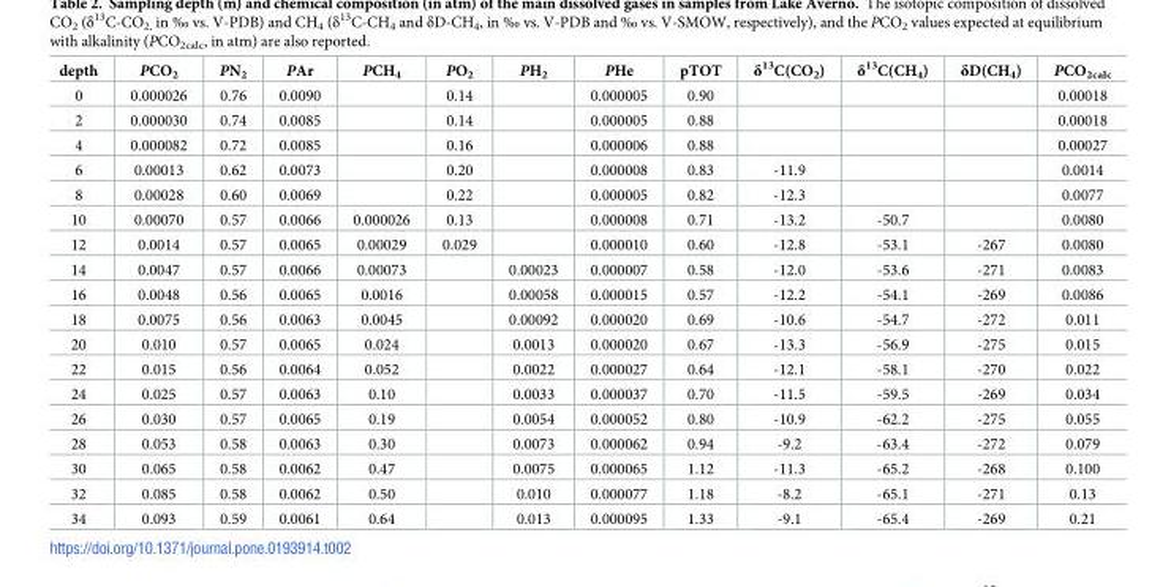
<table><thead><tr><td>depth</td><td>PCO<sub>2</sub></td><td>PN<sub>2</sub></td><td>PAr</td><td>PCH<sub>4</sub></td><td>PO<sub>2</sub></td><td>PH<sub>2</sub></td><td>PHe</td><td>pTOT</td><td>δ<sup>13</sup>C(CO<sub>2</sub>)</td><td>δ<sup>13</sup>C(CH<sub>4</sub>)</td><td>δD(CH<sub>4</sub>)</td><td>PCO<sub>2calc</sub></td></tr></thead><tbody><tr><td>0</td><td>0.000026</td><td>0.76</td><td>0.0090</td><td></td><td>0.14</td><td></td><td>0.000005</td><td>0.90</td><td></td><td></td><td></td><td>0.00018</td></tr><tr><td>2</td><td>0.000030</td><td>0.74</td><td>0.0085</td><td></td><td>0.14</td><td></td><td>0.000005</td><td>0.88</td><td></td><td></td><td></td><td>0.00018</td></tr><tr><td>4</td><td>0.000082</td><td>0.72</td><td>0.0085</td><td></td><td>0.16</td><td></td><td>0.000006</td><td>0.88</td><td></td><td></td><td></td><td>0.00027</td></tr><tr><td>6</td><td>0.00013</td><td>0.62</td><td>0.0073</td><td></td><td>0.20</td><td></td><td>0.000008</td><td>0.83</td><td>-11.9</td><td></td><td></td><td>0.0014</td></tr><tr><td>8</td><td>0.00028</td><td>0.60</td><td>0.0069</td><td></td><td>0.22</td><td></td><td>0.000005</td><td>0.82</td><td>-12.3</td><td></td><td></td><td>0.0077</td></tr><tr><td>10</td><td>0.00070</td><td>0.57</td><td>0.0066</td><td>0.000026</td><td>0.13</td><td></td><td>0.000008</td><td>0.71</td><td>-13.2</td><td>-50.7</td><td></td><td>0.0080</td></tr><tr><td>12</td><td>0.0014</td><td>0.57</td><td>0.0065</td><td>0.00029</td><td>0.029</td><td></td><td>0.000010</td><td>0.60</td><td>-12.8</td><td>-53.1</td><td>-267</td><td>0.0080</td></tr><tr><td>14</td><td>0.0047</td><td>0.57</td><td>0.0066</td><td>0.00073</td><td></td><td>0.00023</td><td>0.000007</td><td>0.58</td><td>-12.0</td><td>-53.6</td><td>-271</td><td>0.0083</td></tr><tr><td>16</td><td>0.0048</td><td>0.56</td><td>0.0065</td><td>0.0016</td><td></td><td>0.00058</td><td>0.000015</td><td>0.57</td><td>-12.2</td><td>-54.1</td><td>-269</td><td>0.0086</td></tr><tr><td>18</td><td>0.0075</td><td>0.56</td><td>0.0063</td><td>0.0045</td><td></td><td>0.00092</td><td>0.000020</td><td>0.69</td><td>-10.6</td><td>-54.7</td><td>-272</td><td>0.011</td></tr><tr><td>20</td><td>0.010</td><td>0.57</td><td>0.0065</td><td>0.024</td><td></td><td>0.0013</td><td>0.000020</td><td>0.67</td><td>-13.3</td><td>-56.9</td><td>-275</td><td>0.015</td></tr><tr><td>22</td><td>0.015</td><td>0.56</td><td>0.0064</td><td>0.052</td><td></td><td>0.0022</td><td>0.000027</td><td>0.64</td><td>-12.1</td><td>-58.1</td><td>-270</td><td>0.022</td></tr><tr><td>24</td><td>0.025</td><td>0.57</td><td>0.0063</td><td>0.10</td><td></td><td>0.0033</td><td>0.000037</td><td>0.70</td><td>-11.5</td><td>-59.5</td><td>-269</td><td>0.034</td></tr><tr><td>26</td><td>0.030</td><td>0.57</td><td>0.0065</td><td>0.19</td><td></td><td>0.0054</td><td>0.000052</td><td>0.80</td><td>-10.9</td><td>-62.2</td><td>-275</td><td>0.055</td></tr><tr><td>28</td><td>0.053</td><td>0.58</td><td>0.0063</td><td>0.30</td><td></td><td>0.0073</td><td>0.000062</td><td>0.94</td><td>-9.2</td><td>-63.4</td><td>-272</td><td>0.079</td></tr><tr><td>30</td><td>0.065</td><td>0.58</td><td>0.0062</td><td>0.47</td><td></td><td>0.0075</td><td>0.000065</td><td>1.12</td><td>-11.3</td><td>-65.2</td><td>-268</td><td>0.100</td></tr><tr><td>32</td><td>0.085</td><td>0.58</td><td>0.0062</td><td>0.50</td><td></td><td>0.010</td><td>0.000077</td><td>1.18</td><td>-8.2</td><td>-65.1</td><td>-271</td><td>0.13</td></tr><tr><td>34</td><td>0.093</td><td>0.59</td><td>0.0061</td><td>0.64</td><td></td><td>0.013</td><td>0.000095</td><td>1.33</td><td>-9.1</td><td>-65.4</td><td>-269</td><td>0.21</td></tr></tbody></table>